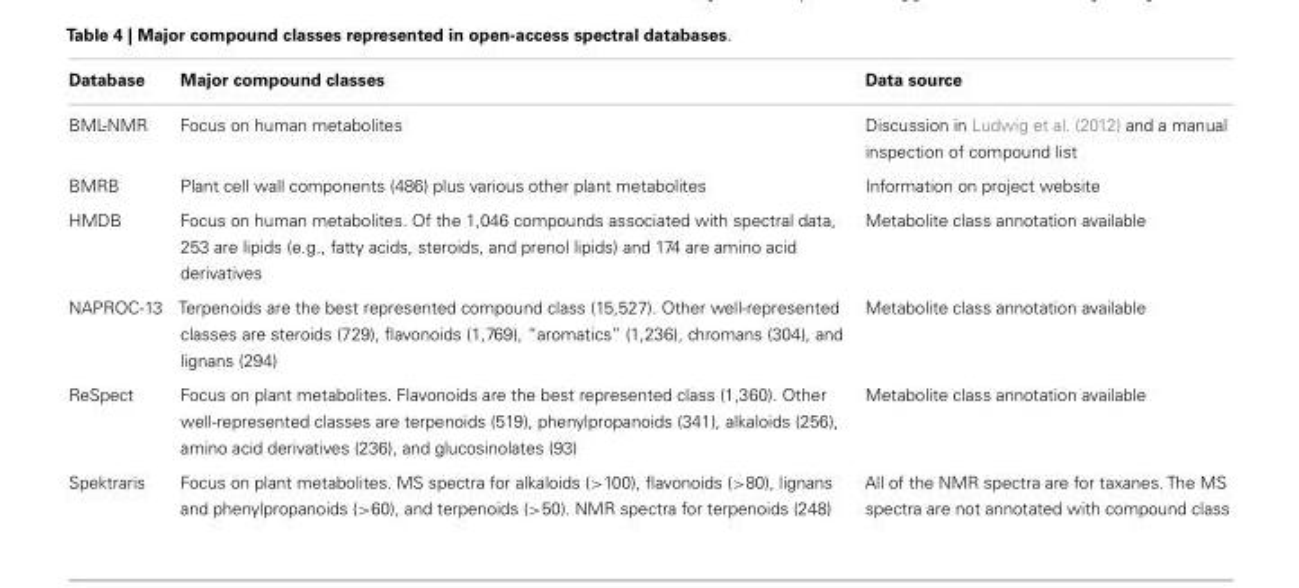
<table><thead><tr><td>Database</td><td>Major compound classes</td><td>Data source</td></tr></thead><tbody><tr><td>BML-NMR</td><td>Focus on human metabolites</td><td>Discussion in Ludwig et al. (2012) and a manual inspection of compound list</td></tr><tr><td>BMRB</td><td>Plant cell wall components (486) plus various other plant metabolites</td><td>Information on project website</td></tr><tr><td>HMDB</td><td>Focus on human metabolites. Of the 1,046 compounds associated with spectral data, 253 are lipids (e.g., fatty acids, steroids, and prenol lipids) and 174 are amino acid derivatives</td><td>Metabolite class annotation available</td></tr><tr><td>NAPROC-13</td><td>Terpenoids are the best represented compound class (15,527). Other well-represented classes are steroids (729), flavonoids (1,769), “aromatics” (1,236), chromans (304), and lignans (294)</td><td>Metabolite class annotation available</td></tr><tr><td>ReSpect</td><td>Focus on plant metabolites. Flavonoids are the best represented class (1,360). Other well-represented classes are terpenoids (519), phenylpropanoids (341), alkaloids (256), amino acid derivatives (236), and glucosinolates (93)</td><td>Metabolite class annotation available</td></tr><tr><td>Spektraris</td><td>Focus on plant metabolites. MS spectra for alkaloids (&gt;100), flavonoids (&gt;80), lignans and phenylpropanoids (&gt;60), and terpenoids (&gt;50). NMR spectra for terpenoids (248)</td><td>All of the NMR spectra are for taxanes. The MS spectra are not annotated with compound class</td></tr></tbody></table>